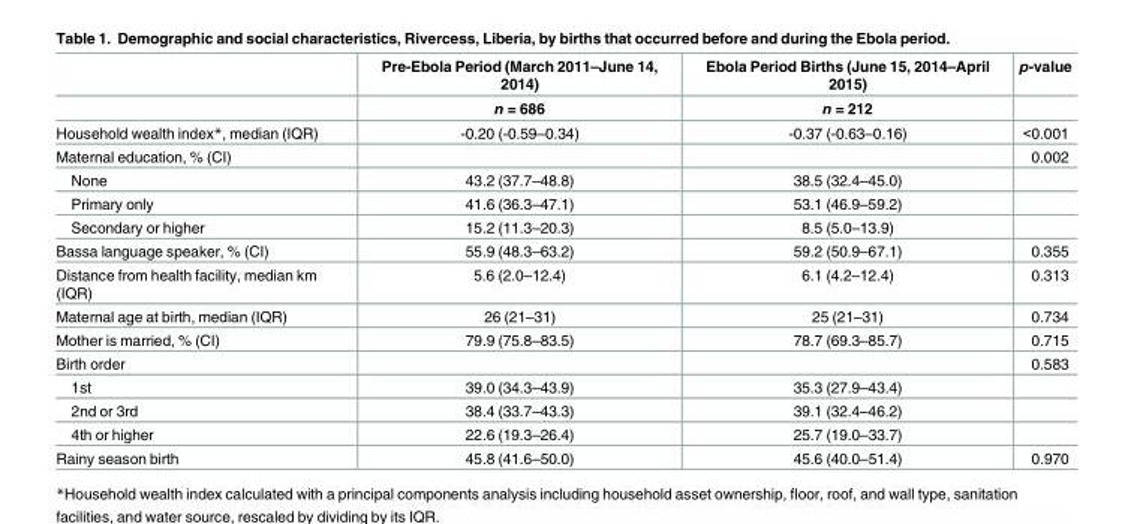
<table><thead><tr><td rowspan="2"></td><td rowspan="2">Pre-Ebola Period (March 2011–June 14, 2014) n = 686</td><td rowspan="2">Ebola Period Births (June 15, 2014–April 2015) n = 212</td><td rowspan="2">p-value</td></tr><tr></tr></thead><tbody><tr><td>Household wealth index*, median (IQR)</td><td>-0.20 (-0.59–0.34)</td><td>-0.37 (-0.63–0.16)</td><td>&lt;0.001</td></tr><tr><td>Maternal education, % (CI)</td><td></td><td></td><td>0.002</td></tr><tr><td>None</td><td>43.2 (37.7–48.8)</td><td>38.5 (32.4–45.0)</td><td></td></tr><tr><td>Primary only</td><td>41.6 (36.3–47.1)</td><td>53.1 (46.9–59.2)</td><td></td></tr><tr><td>Secondary or higher</td><td>15.2 (11.3–20.3)</td><td>8.5 (5.0–13.9)</td><td></td></tr><tr><td>Bassa language speaker, % (CI)</td><td>55.9 (48.3–63.2)</td><td>59.2 (50.9–67.1)</td><td>0.355</td></tr><tr><td>Distance from health facility, median km (IQR)</td><td>5.6 (2.0–12.4)</td><td>6.1 (4.2–12.4)</td><td>0.313</td></tr><tr><td>Maternal age at birth, median (IQR)</td><td>26 (21–31)</td><td>25 (21–31)</td><td>0.734</td></tr><tr><td>Mother is married, % (CI)</td><td>79.9 (75.8–83.5)</td><td>78.7 (69.3–85.7)</td><td>0.715</td></tr><tr><td>Birth order</td><td></td><td></td><td>0.583</td></tr><tr><td>1st</td><td>39.0 (34.3–43.9)</td><td>35.3 (27.9–43.4)</td><td></td></tr><tr><td>2nd or 3rd</td><td>38.4 (33.7–43.3)</td><td>39.1 (32.4–46.2)</td><td></td></tr><tr><td>4th or higher</td><td>22.6 (19.3–26.4)</td><td>25.7 (19.0–33.7)</td><td></td></tr><tr><td>Rainy season birth</td><td>45.8 (41.6–50.0)</td><td>45.6 (40.0–51.4)</td><td>0.970</td></tr></tbody></table>